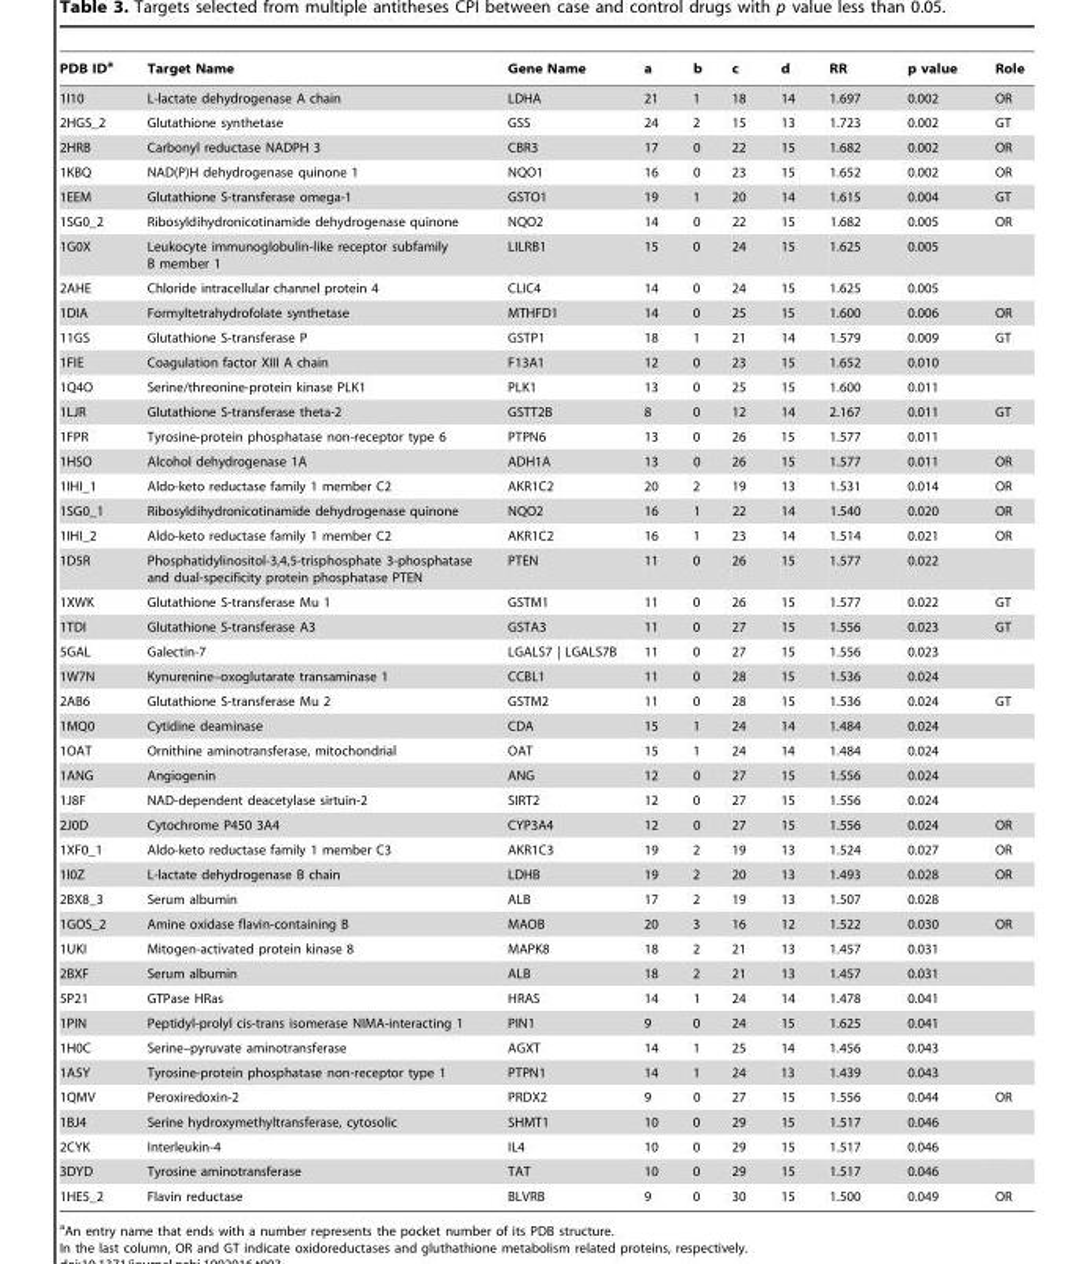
<table><thead><tr><td>PDB ID<sup>a</sup></td><td>Target Name</td><td>Gene Name</td><td>a</td><td>b</td><td>c</td><td>d</td><td>RR</td><td>p value</td><td>Role</td></tr></thead><tbody><tr><td>1I10</td><td>L-lactate dehydrogenase A chain</td><td>LDHA</td><td>21</td><td>1</td><td>18</td><td>14</td><td>1.697</td><td>0.002</td><td>OR</td></tr><tr><td>2HGS_2</td><td>Glutathione synthetase</td><td>GSS</td><td>24</td><td>2</td><td>15</td><td>13</td><td>1.723</td><td>0.002</td><td>GT</td></tr><tr><td>2HRB</td><td>Carbonyl reductase NADPH 3</td><td>CBR3</td><td>17</td><td>0</td><td>22</td><td>15</td><td>1.682</td><td>0.002</td><td>OR</td></tr><tr><td>1KBQ</td><td>NAD(P)H dehydrogenase quinone 1</td><td>NQO1</td><td>16</td><td>0</td><td>23</td><td>15</td><td>1.652</td><td>0.002</td><td>OR</td></tr><tr><td>1EEM</td><td>Glutathione S-transferase omega-1</td><td>GSTO1</td><td>19</td><td>1</td><td>20</td><td>14</td><td>1.615</td><td>0.004</td><td>GT</td></tr><tr><td>1SG0_2</td><td>Ribosyldihydronicotinamide dehydrogenase quinone</td><td>NQO2</td><td>14</td><td>0</td><td>22</td><td>15</td><td>1.682</td><td>0.005</td><td>OR</td></tr><tr><td>1G0X</td><td>Leukocyte immunoglobulin-like receptor subfamily B member 1</td><td>LILRB1</td><td>15</td><td>0</td><td>24</td><td>15</td><td>1.625</td><td>0.005</td><td></td></tr><tr><td>2AHE</td><td>Chloride intracellular channel protein 4</td><td>CLIC4</td><td>14</td><td>0</td><td>24</td><td>15</td><td>1.625</td><td>0.005</td><td></td></tr><tr><td>1DIA</td><td>Formyltetrahydrofolate synthetase</td><td>MTHFD1</td><td>14</td><td>0</td><td>25</td><td>15</td><td>1.600</td><td>0.006</td><td>OR</td></tr><tr><td>11GS</td><td>Glutathione S-transferase P</td><td>GSTP1</td><td>18</td><td>1</td><td>21</td><td>14</td><td>1.579</td><td>0.009</td><td>GT</td></tr><tr><td>1FIE</td><td>Coagulation factor XIII A chain</td><td>F13A1</td><td>12</td><td>0</td><td>23</td><td>15</td><td>1.652</td><td>0.010</td><td></td></tr><tr><td>1Q4O</td><td>Serine/threonine-protein kinase PLK1</td><td>PLK1</td><td>13</td><td>0</td><td>25</td><td>15</td><td>1.600</td><td>0.011</td><td></td></tr><tr><td>1LJR</td><td>Glutathione S-transferase theta-2</td><td>GSTT2B</td><td>8</td><td>0</td><td>12</td><td>14</td><td>2.167</td><td>0.011</td><td>GT</td></tr><tr><td>1FPR</td><td>Tyrosine-protein phosphatase non-receptor type 6</td><td>PTPN6</td><td>13</td><td>0</td><td>26</td><td>15</td><td>1.577</td><td>0.011</td><td></td></tr><tr><td>1HSO</td><td>Alcohol dehydrogenase 1A</td><td>ADH1A</td><td>13</td><td>0</td><td>26</td><td>15</td><td>1.577</td><td>0.011</td><td>OR</td></tr><tr><td>1IHI_1</td><td>Aldo-keto reductase family 1 member C2</td><td>AKR1C2</td><td>20</td><td>2</td><td>19</td><td>13</td><td>1.531</td><td>0.014</td><td>OR</td></tr><tr><td>1SG0_1</td><td>Ribosyldihydronicotinamide dehydrogenase quinone</td><td>NQO2</td><td>16</td><td>1</td><td>22</td><td>14</td><td>1.540</td><td>0.020</td><td>OR</td></tr><tr><td>1IHI_2</td><td>Aldo-keto reductase family 1 member C2</td><td>AKR1C2</td><td>16</td><td>1</td><td>23</td><td>14</td><td>1.514</td><td>0.021</td><td>OR</td></tr><tr><td>1D5R</td><td>Phosphatidylinositol-3,4,5-trisphosphate 3-phosphatase and dual-specificity protein phosphatase PTEN</td><td>PTEN</td><td>11</td><td>0</td><td>26</td><td>15</td><td>1.577</td><td>0.022</td><td></td></tr><tr><td>1XWK</td><td>Glutathione S-transferase Mu 1</td><td>GSTM1</td><td>11</td><td>0</td><td>26</td><td>15</td><td>1.577</td><td>0.022</td><td>GT</td></tr><tr><td>1TDI</td><td>Glutathione S-transferase A3</td><td>GSTA3</td><td>11</td><td>0</td><td>27</td><td>15</td><td>1.556</td><td>0.023</td><td>GT</td></tr><tr><td>5GAL</td><td>Galectin-7</td><td>LGALS7 | LGALS7B</td><td>11</td><td>0</td><td>27</td><td>15</td><td>1.556</td><td>0.023</td><td></td></tr><tr><td>1W7N</td><td>Kynurenine–oxoglutarate transaminase 1</td><td>CCBL1</td><td>11</td><td>0</td><td>28</td><td>15</td><td>1.536</td><td>0.024</td><td></td></tr><tr><td>2AB6</td><td>Glutathione S-transferase Mu 2</td><td>GSTM2</td><td>11</td><td>0</td><td>28</td><td>15</td><td>1.536</td><td>0.024</td><td>GT</td></tr><tr><td>1MQ0</td><td>Cytidine deaminase</td><td>CDA</td><td>15</td><td>1</td><td>24</td><td>14</td><td>1.484</td><td>0.024</td><td></td></tr><tr><td>1OAT</td><td>Ornithine aminotransferase, mitochondrial</td><td>OAT</td><td>15</td><td>1</td><td>24</td><td>14</td><td>1.484</td><td>0.024</td><td></td></tr><tr><td>1ANG</td><td>Angiogenin</td><td>ANG</td><td>12</td><td>0</td><td>27</td><td>15</td><td>1.556</td><td>0.024</td><td></td></tr><tr><td>1J8F</td><td>NAD-dependent deacetylase sirtuin-2</td><td>SIRT2</td><td>12</td><td>0</td><td>27</td><td>15</td><td>1.556</td><td>0.024</td><td></td></tr><tr><td>2J0D</td><td>Cytochrome P450 3A4</td><td>CYP3A4</td><td>12</td><td>0</td><td>27</td><td>15</td><td>1.556</td><td>0.024</td><td>OR</td></tr><tr><td>1XF0_1</td><td>Aldo-keto reductase family 1 member C3</td><td>AKR1C3</td><td>19</td><td>2</td><td>19</td><td>13</td><td>1.524</td><td>0.027</td><td>OR</td></tr><tr><td>1I0Z</td><td>L-lactate dehydrogenase B chain</td><td>LDHB</td><td>19</td><td>2</td><td>20</td><td>13</td><td>1.493</td><td>0.028</td><td>OR</td></tr><tr><td>2BX8_3</td><td>Serum albumin</td><td>ALB</td><td>17</td><td>2</td><td>19</td><td>13</td><td>1.507</td><td>0.028</td><td></td></tr><tr><td>1GOS_2</td><td>Amine oxidase flavin-containing B</td><td>MAOB</td><td>20</td><td>3</td><td>16</td><td>12</td><td>1.522</td><td>0.030</td><td>OR</td></tr><tr><td>1UKI</td><td>Mitogen-activated protein kinase 8</td><td>MAPK8</td><td>18</td><td>2</td><td>21</td><td>13</td><td>1.457</td><td>0.031</td><td></td></tr><tr><td>2BXF</td><td>Serum albumin</td><td>ALB</td><td>18</td><td>2</td><td>21</td><td>13</td><td>1.457</td><td>0.031</td><td></td></tr><tr><td>5P21</td><td>GTPase HRas</td><td>HRAS</td><td>14</td><td>1</td><td>24</td><td>14</td><td>1.478</td><td>0.041</td><td></td></tr><tr><td>1PIN</td><td>Peptidyl-prolyl cis-trans isomerase NIMA-interacting 1</td><td>PIN1</td><td>9</td><td>0</td><td>24</td><td>15</td><td>1.625</td><td>0.041</td><td></td></tr><tr><td>1H0C</td><td>Serine–pyruvate aminotransferase</td><td>AGXT</td><td>14</td><td>1</td><td>25</td><td>14</td><td>1.456</td><td>0.043</td><td></td></tr><tr><td>1A5Y</td><td>Tyrosine-protein phosphatase non-receptor type 1</td><td>PTPN1</td><td>14</td><td>1</td><td>24</td><td>13</td><td>1.439</td><td>0.043</td><td></td></tr><tr><td>1QMV</td><td>Peroxiredoxin-2</td><td>PRDX2</td><td>9</td><td>0</td><td>27</td><td>15</td><td>1.556</td><td>0.044</td><td>OR</td></tr><tr><td>1BJ4</td><td>Serine hydroxymethyltransferase, cytosolic</td><td>SHMT1</td><td>10</td><td>0</td><td>29</td><td>15</td><td>1.517</td><td>0.046</td><td></td></tr><tr><td>2CYK</td><td>Interleukin-4</td><td>IL4</td><td>10</td><td>0</td><td>29</td><td>15</td><td>1.517</td><td>0.046</td><td></td></tr><tr><td>3DYD</td><td>Tyrosine aminotransferase</td><td>TAT</td><td>10</td><td>0</td><td>29</td><td>15</td><td>1.517</td><td>0.046</td><td></td></tr><tr><td>1HE5_2</td><td>Flavin reductase</td><td>BLVRB</td><td>9</td><td>0</td><td>30</td><td>15</td><td>1.500</td><td>0.049</td><td>OR</td></tr></tbody></table>